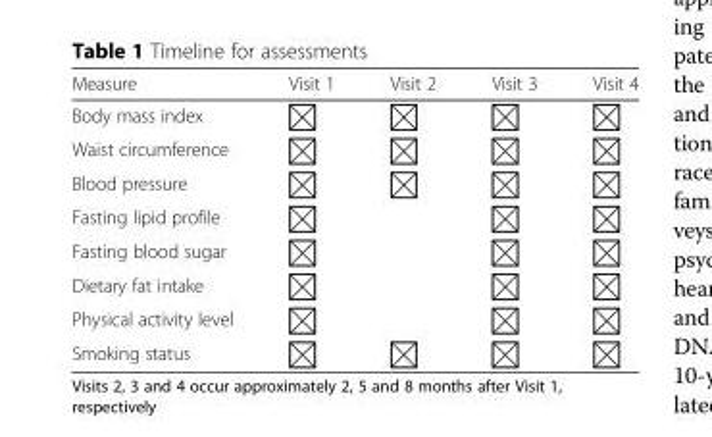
<table><thead><tr><td>Measure</td><td>Visit 1</td><td>Visit 2</td><td>Visit 3</td><td>Visit 4</td></tr></thead><tbody><tr><td colspan="5">Body mass index</td></tr><tr><td colspan="5">Waist circumference</td></tr><tr><td colspan="5">Blood pressure</td></tr><tr><td colspan="5">Fasting lipid profile</td></tr><tr><td colspan="5">Fasting blood sugar</td></tr><tr><td colspan="5">Dietary fat intake</td></tr><tr><td colspan="5">Physical activity level</td></tr><tr><td>Smoking status</td><td></td><td></td><td></td><td></td></tr></tbody></table>